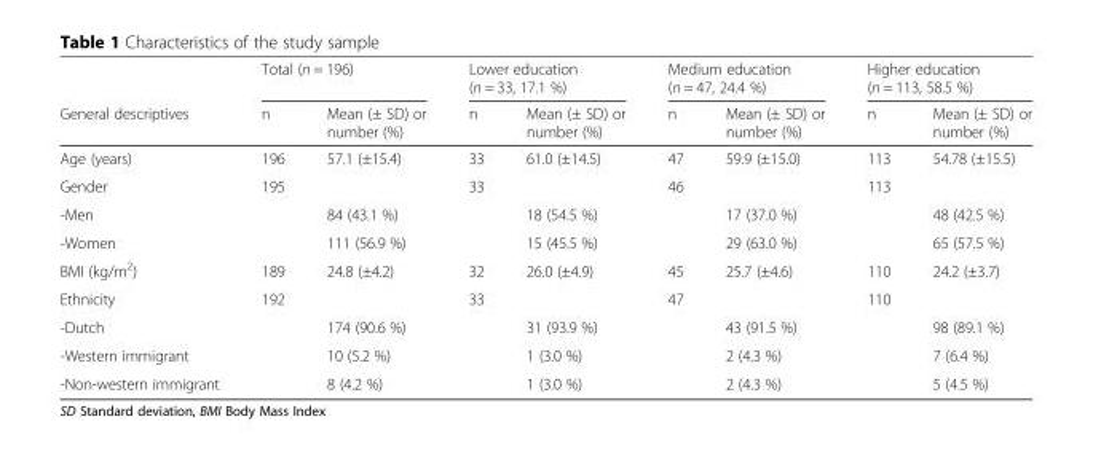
<table><thead><tr><td rowspan="2">General descriptives</td><td colspan="2">Total (n = 196)</td><td colspan="2">Lower education (n = 33, 17.1 %)</td><td colspan="2">Medium education (n = 47, 24.4 %)</td><td colspan="2">Higher education (n = 113, 58.5 %)</td></tr><tr><td>n</td><td>Mean (± SD) or number (%)</td><td>n</td><td>Mean (± SD) or number (%)</td><td>n</td><td>Mean (± SD) or number (%)</td><td>n</td><td>Mean (± SD) or number (%)</td></tr></thead><tbody><tr><td>Age (years)</td><td>196</td><td>57.1 (±15.4)</td><td>33</td><td>61.0 (±14.5)</td><td>47</td><td>59.9 (±15.0)</td><td>113</td><td>54.78 (±15.5)</td></tr><tr><td>Gender</td><td>195</td><td></td><td>33</td><td></td><td>46</td><td></td><td>113</td><td></td></tr><tr><td>-Men</td><td></td><td>84 (43.1 %)</td><td></td><td>18 (54.5 %)</td><td></td><td>17 (37.0 %)</td><td></td><td>48 (42.5 %)</td></tr><tr><td>-Women</td><td></td><td>111 (56.9 %)</td><td></td><td>15 (45.5 %)</td><td></td><td>29 (63.0 %)</td><td></td><td>65 (57.5 %)</td></tr><tr><td>BMI (kg/m<sup>2</sup>)</td><td>189</td><td>24.8 (±4.2)</td><td>32</td><td>26.0 (±4.9)</td><td>45</td><td>25.7 (±4.6)</td><td>110</td><td>24.2 (±3.7)</td></tr><tr><td>Ethnicity</td><td>192</td><td></td><td>33</td><td></td><td>47</td><td></td><td>110</td><td></td></tr><tr><td>-Dutch</td><td></td><td>174 (90.6 %)</td><td></td><td>31 (93.9 %)</td><td></td><td>43 (91.5 %)</td><td></td><td>98 (89.1 %)</td></tr><tr><td>-Western immigrant</td><td></td><td>10 (5.2 %)</td><td></td><td>1 (3.0 %)</td><td></td><td>2 (4.3 %)</td><td></td><td>7 (6.4 %)</td></tr><tr><td>-Non-western immigrant</td><td></td><td>8 (4.2 %)</td><td></td><td>1 (3.0 %)</td><td></td><td>2 (4.3 %)</td><td></td><td>5 (4.5 %)</td></tr></tbody></table>